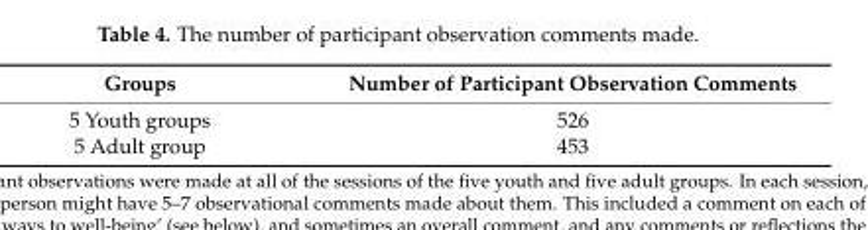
<table><thead><tr><td>Groups</td><td>Number of Participant Observation Comments</td></tr></thead><tbody><tr><td>5 Youth groups</td><td>526</td></tr><tr><td>5 Adult group</td><td>453</td></tr></tbody></table>